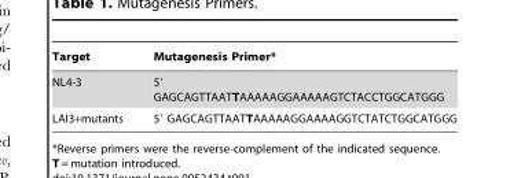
<table><thead><tr><td>Target</td><td>Mutagenesis Primer*</td></tr></thead><tbody><tr><td>NL4-3</td><td>5′ GAGCAGTTAATTAAAAAGGAAAAAGTCTACCTGGCATGGG</td></tr><tr><td>LAI3+mutants</td><td>5′ GAGCAGTTAATTAAAAAGGAAAAGGTCTATCTGGCATGGG</td></tr></tbody></table>